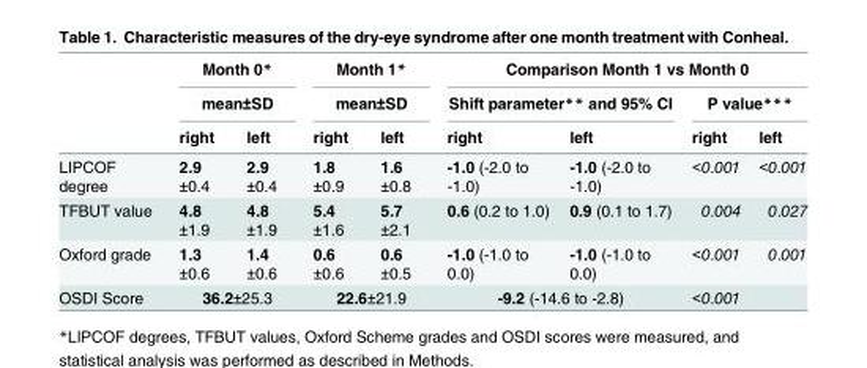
<table><thead><tr><td rowspan="3"></td><td rowspan="2" colspan="2">Month 0* mean±SD</td><td rowspan="2" colspan="2">Month 1* mean±SD</td><td colspan="4">Comparison Month 1 vs Month 0</td></tr><tr><td colspan="2">Shift parameter** and 95% CI</td><td colspan="2">P value***</td></tr><tr><td>right</td><td>left</td><td>right</td><td>left</td><td>right</td><td>left</td><td>right</td><td>left</td></tr></thead><tbody><tr><td>LIPCOF degree</td><td>2.9 ±0.4</td><td>2.9 ±0.4</td><td>1.8 ±0.9</td><td>1.6 ±0.8</td><td>-1.0 (-2.0 to -1.0)</td><td>-1.0 (-2.0 to -1.0)</td><td>&lt;0.001</td><td>&lt;0.001</td></tr><tr><td>TFBUT value</td><td>4.8 ±1.9</td><td>4.8 ±1.9</td><td>5.4 ±1.6</td><td>5.7 ±2.1</td><td>0.6 (0.2 to 1.0)</td><td>0.9 (0.1 to 1.7)</td><td>0.004</td><td>0.027</td></tr><tr><td>Oxford grade</td><td>1.3 ±0.6</td><td>1.4 ±0.6</td><td>0.6 ±0.6</td><td>0.6 ±0.5</td><td>-1.0 (-1.0 to 0.0)</td><td>-1.0 (-1.0 to 0.0)</td><td>&lt;0.001</td><td>0.001</td></tr><tr><td>OSDI Score</td><td colspan="2">36.2±25.3</td><td colspan="2">22.6±21.9</td><td colspan="2">-9.2 (-14.6 to -2.8)</td><td colspan="2">&lt;0.001</td></tr></tbody></table>